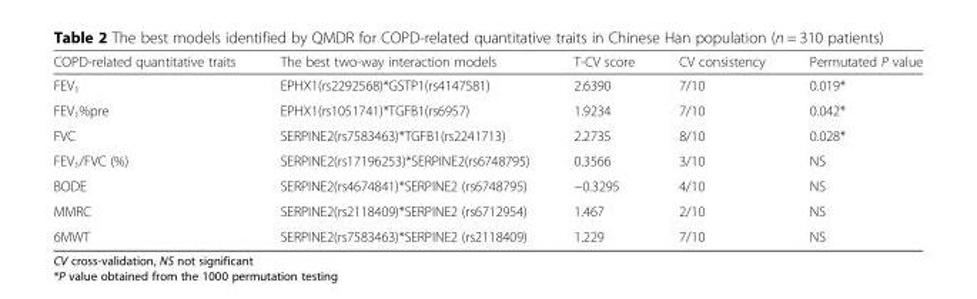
<table><thead><tr><td>COPD-related quantitative traits</td><td>The best two-way interaction models</td><td>T-CV score</td><td>CV consistency</td><td>Permutated P value</td></tr></thead><tbody><tr><td>FEV<sub>1</sub></td><td>EPHX1(rs2292568)*GSTP1(rs4147581)</td><td>2.6390</td><td>7/10</td><td>0.019*</td></tr><tr><td>FEV<sub>1</sub>%pre</td><td>EPHX1(rs1051741)*TGFB1(rs6957)</td><td>1.9234</td><td>7/10</td><td>0.042*</td></tr><tr><td>FVC</td><td>SERPINE2(rs7583463)*TGFB1(rs2241713)</td><td>2.2735</td><td>8/10</td><td>0.028*</td></tr><tr><td>FEV<sub>1</sub>/FVC (%)</td><td>SERPINE2(rs17196253)*SERPINE2(rs6748795)</td><td>0.3566</td><td>3/10</td><td>NS</td></tr><tr><td>BODE</td><td>SERPINE2(rs4674841)*SERPINE2 (rs6748795)</td><td>−0.3295</td><td>4/10</td><td>NS</td></tr><tr><td>MMRC</td><td>SERPINE2(rs2118409)*SERPINE2 (rs6712954)</td><td>1.467</td><td>2/10</td><td>NS</td></tr><tr><td>6MWT</td><td>SERPINE2(rs7583463)*SERPINE2 (rs2118409)</td><td>1.229</td><td>7/10</td><td>NS</td></tr></tbody></table>